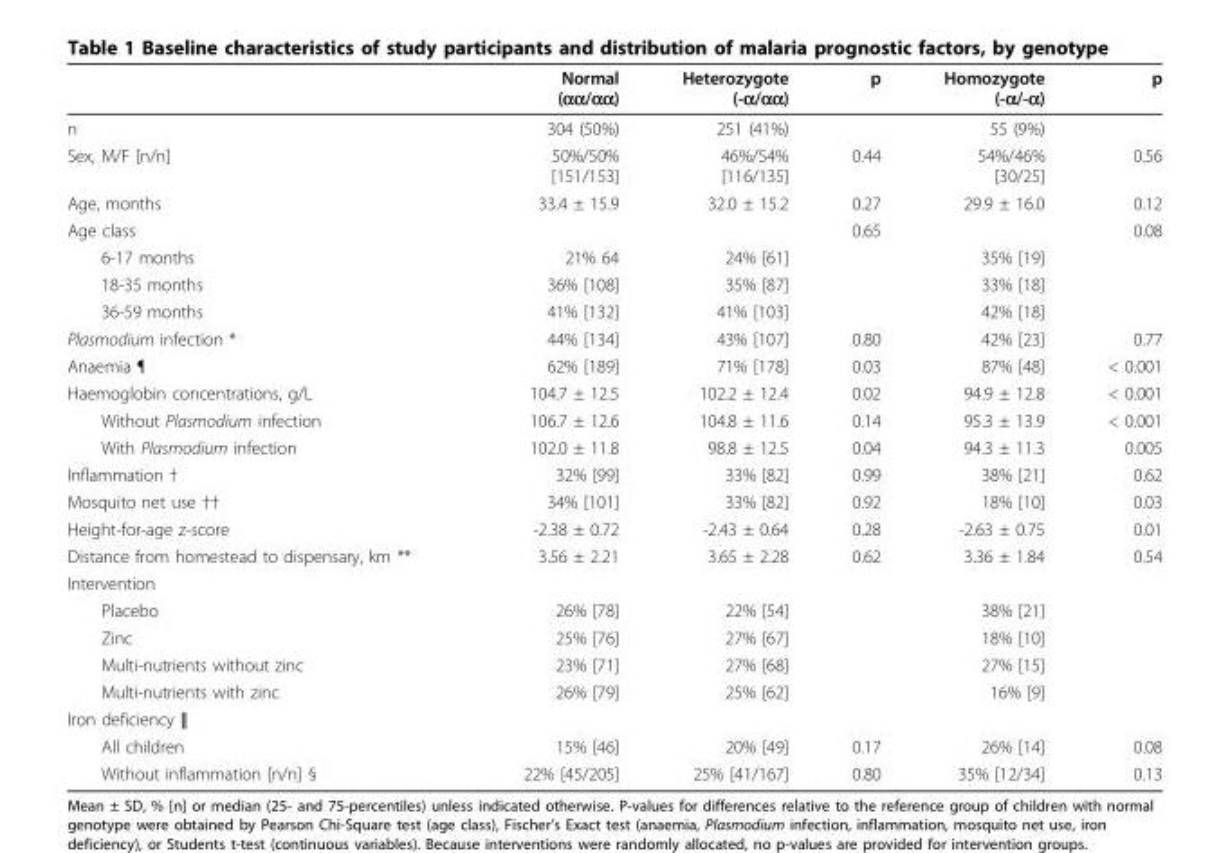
<table><thead><tr><td></td><td>Normal (αα/αα)</td><td>Heterozygote (-α/αα)</td><td>p</td><td>Homozygote (-α/-α)</td><td>p</td></tr></thead><tbody><tr><td>n</td><td>304 (50%)</td><td>251 (41%)</td><td></td><td>55 (9%)</td><td></td></tr><tr><td>Sex, M/F [n/n]</td><td>50%/50% [151/153]</td><td>46%/54% [116/135]</td><td>0.44</td><td>54%/46% [30/25]</td><td>0.56</td></tr><tr><td>Age, months</td><td>33.4 ± 15.9</td><td>32.0 ± 15.2</td><td>0.27</td><td>29.9 ± 16.0</td><td>0.12</td></tr><tr><td>Age class</td><td></td><td></td><td>0.65</td><td></td><td>0.08</td></tr><tr><td>6-17 months</td><td>21% 64</td><td>24% [61]</td><td></td><td>35% [19]</td><td></td></tr><tr><td>18-35 months</td><td>36% [108]</td><td>35% [87]</td><td></td><td>33% [18]</td><td></td></tr><tr><td>36-59 months</td><td>41% [132]</td><td>41% [103]</td><td></td><td>42% [18]</td><td></td></tr><tr><td>Plasmodium infection *</td><td>44% [134]</td><td>43% [107]</td><td>0.80</td><td>42% [23]</td><td>0.77</td></tr><tr><td>Anaemia ¶</td><td>62% [189]</td><td>71% [178]</td><td>0.03</td><td>87% [48]</td><td>&lt; 0.001</td></tr><tr><td>Haemoglobin concentrations, g/L</td><td>104.7 ± 12.5</td><td>102.2 ± 12.4</td><td>0.02</td><td>94.9 ± 12.8</td><td>&lt; 0.001</td></tr><tr><td>Without Plasmodium infection</td><td>106.7 ± 12.6</td><td>104.8 ± 11.6</td><td>0.14</td><td>95.3 ± 13.9</td><td>&lt; 0.001</td></tr><tr><td>With Plasmodium infection</td><td>102.0 ± 11.8</td><td>98.8 ± 12.5</td><td>0.04</td><td>94.3 ± 11.3</td><td>0.005</td></tr><tr><td>Inflammation †</td><td>32% [99]</td><td>33% [82]</td><td>0.99</td><td>38% [21]</td><td>0.62</td></tr><tr><td>Mosquito net use ††</td><td>34% [101]</td><td>33% [82]</td><td>0.92</td><td>18% [10]</td><td>0.03</td></tr><tr><td>Height-for-age z-score</td><td>-2.38 ± 0.72</td><td>-2.43 ± 0.64</td><td>0.28</td><td>-2.63 ± 0.75</td><td>0.01</td></tr><tr><td>Distance from homestead to dispensary, km **</td><td>3.56 ± 2.21</td><td>3.65 ± 2.28</td><td>0.62</td><td>3.36 ± 1.84</td><td>0.54</td></tr><tr><td colspan="6">Intervention</td></tr><tr><td>Placebo</td><td>26% [78]</td><td>22% [54]</td><td></td><td>38% [21]</td><td></td></tr><tr><td>Zinc</td><td>25% [76]</td><td>27% [67]</td><td></td><td>18% [10]</td><td></td></tr><tr><td>Multi-nutrients without zinc</td><td>23% [71]</td><td>27% [68]</td><td></td><td>27% [15]</td><td></td></tr><tr><td>Multi-nutrients with zinc</td><td>26% [79]</td><td>25% [62]</td><td></td><td>16% [9]</td><td></td></tr><tr><td colspan="6">Iron deficiency ∥</td></tr><tr><td>All children</td><td>15% [46]</td><td>20% [49]</td><td>0.17</td><td>26% [14]</td><td>0.08</td></tr><tr><td>Without inflammation [n/n] §</td><td>22% [45/205]</td><td>25% [41/167]</td><td>0.80</td><td>35% [12/34]</td><td>0.13</td></tr></tbody></table>